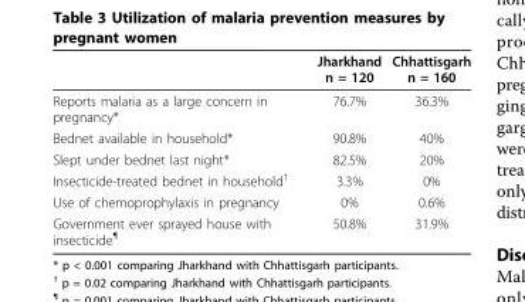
<table><thead><tr><td></td><td>Jharkhand n = 120</td><td>Chhattisgarh n = 160</td></tr></thead><tbody><tr><td>Reports malaria as a large concern in pregnancy*</td><td>76.7%</td><td>36.3%</td></tr><tr><td>Bednet available in household*</td><td>90.8%</td><td>40%</td></tr><tr><td>Slept under bednet last night*</td><td>82.5%</td><td>20%</td></tr><tr><td>Insecticide-treated bednet in household<sup>†</sup></td><td>3.3%</td><td>0%</td></tr><tr><td>Use of chemoprophylaxis in pregnancy</td><td>0%</td><td>0.6%</td></tr><tr><td>Government ever sprayed house with insecticide<sup>¶</sup></td><td>50.8%</td><td>31.9%</td></tr></tbody></table>